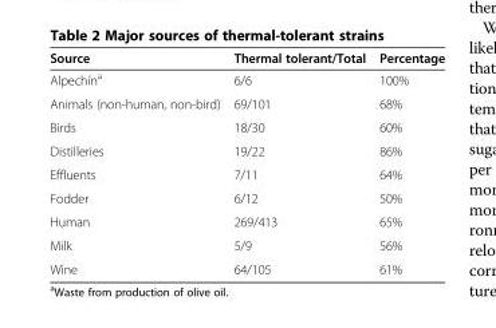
<table><thead><tr><td>Source</td><td>Thermal tolerant/Total</td><td>Percentage</td></tr></thead><tbody><tr><td>Alpechín<sup>a</sup></td><td>6/6</td><td>100%</td></tr><tr><td>Animals (non-human, non-bird)</td><td>69/101</td><td>68%</td></tr><tr><td>Birds</td><td>18/30</td><td>60%</td></tr><tr><td>Distilleries</td><td>19/22</td><td>86%</td></tr><tr><td>Effluents</td><td>7/11</td><td>64%</td></tr><tr><td>Fodder</td><td>6/12</td><td>50%</td></tr><tr><td>Human</td><td>269/413</td><td>65%</td></tr><tr><td>Milk</td><td>5/9</td><td>56%</td></tr><tr><td>Wine</td><td>64/105</td><td>61%</td></tr></tbody></table>